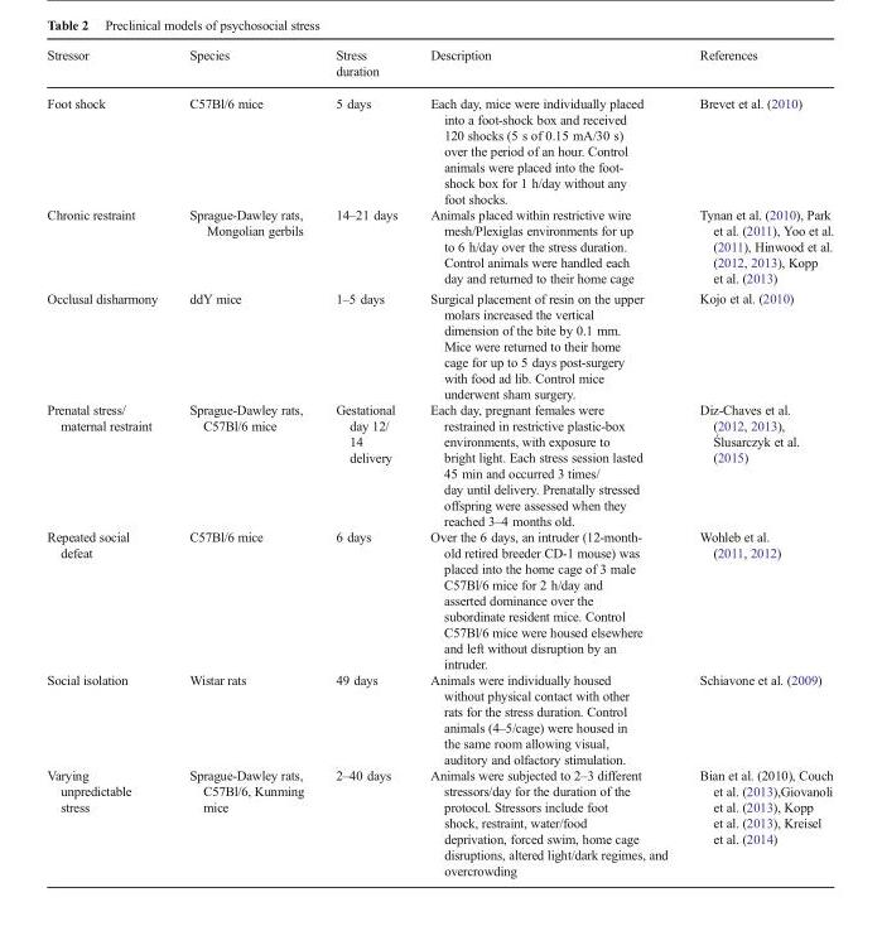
<table><thead><tr><td>Stressor</td><td>Species</td><td>Stress duration</td><td>Description</td><td>References</td></tr></thead><tbody><tr><td>Foot shock</td><td>C57Bl/6 mice</td><td>5 days</td><td>Each day, mice were individually placed into a foot-shock box and received 120 shocks (5 s of 0.15 mA/30 s) over the period of an hour. Control animals were placed into the foot- shock box for 1 h/day without any foot shocks.</td><td>Brevet et al. (2010)</td></tr><tr><td>Chronic restraint</td><td>Sprague-Dawley rats, Mongolian gerbils</td><td>14–21 days</td><td>Animals placed within restrictive wire mesh/Plexiglas environments for up to 6 h/day over the stress duration. Control animals were handled each day and returned to their home cage</td><td>Tynan et al. (2010), Park et al. (2011), Yoo et al. (2011), Hinwood et al. (2012, 2013), Kopp et al. (2013)</td></tr><tr><td>Occlusal disharmony</td><td>ddY mice</td><td>1–5 days</td><td>Surgical placement of resin on the upper molars increased the vertical dimension of the bite by 0.1 mm. Mice were returned to their home cage for up to 5 days post-surgery with food ad lib. Control mice underwent sham surgery.</td><td>Kojo et al. (2010)</td></tr><tr><td>Prenatal stress/ maternal restraint</td><td>Sprague-Dawley rats, C57Bl/6 mice</td><td>Gestational day 12/ 14 delivery</td><td>Each day, pregnant females were restrained in restrictive plastic-box environments, with exposure to bright light. Each stress session lasted 45 min and occurred 3 times/ day until delivery. Prenatally stressed offspring were assessed when they reached 3–4 months old.</td><td>Diz-Chaves et al. (2012, 2013), Ślusarczyk et al. (2015)</td></tr><tr><td>Repeated social defeat</td><td>C57Bl/6 mice</td><td>6 days</td><td>Over the 6 days, an intruder (12-month- old retired breeder CD-1 mouse) was placed into the home cage of 3 male C57Bl/6 mice for 2 h/day and asserted dominance over the subordinate resident mice. Control C57Bl/6 mice were housed elsewhere and left without disruption by an intruder.</td><td>Wohleb et al. (2011, 2012)</td></tr><tr><td>Social isolation</td><td>Wistar rats</td><td>49 days</td><td>Animals were individually housed without physical contact with other rats for the stress duration. Control animals (4–5/cage) were housed in the same room allowing visual, auditory and olfactory stimulation.</td><td>Schiavone et al. (2009)</td></tr><tr><td>Varying unpredictable stress</td><td>Sprague-Dawley rats, C57Bl/6, Kunming mice</td><td>2–40 days</td><td>Animals were subjected to 2–3 different stressors/day for the duration of the protocol. Stressors include foot shock, restraint, water/food deprivation, forced swim, home cage disruptions, altered light/dark regimes, and overcrowding</td><td>Bian et al. (2010), Couch et al. (2013),Giovanoli et al. (2013), Kopp et al. (2013), Kreisel et al. (2014)</td></tr></tbody></table>